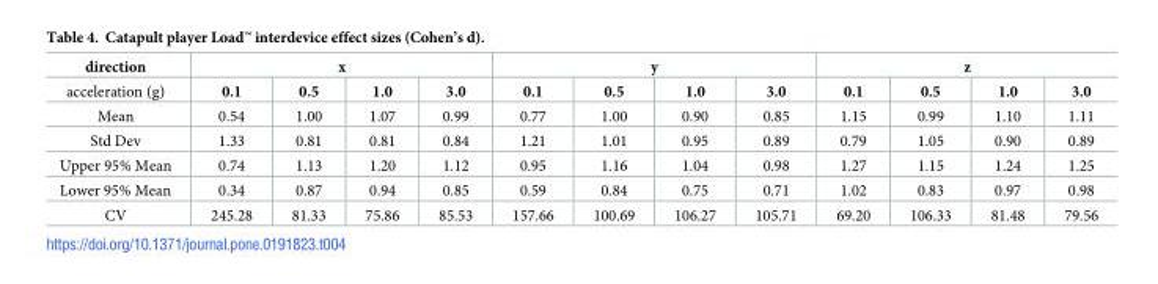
<table><thead><tr><td rowspan="2">direction acceleration (g)</td><td colspan="4">x</td><td colspan="4">y</td><td colspan="4">z</td></tr><tr><td>0.1</td><td>0.5</td><td>1.0</td><td>3.0</td><td>0.1</td><td>0.5</td><td>1.0</td><td>3.0</td><td>0.1</td><td>0.5</td><td>1.0</td><td>3.0</td></tr></thead><tbody><tr><td>Mean</td><td>0.54</td><td>1.00</td><td>1.07</td><td>0.99</td><td>0.77</td><td>1.00</td><td>0.90</td><td>0.85</td><td>1.15</td><td>0.99</td><td>1.10</td><td>1.11</td></tr><tr><td>Std Dev</td><td>1.33</td><td>0.81</td><td>0.81</td><td>0.84</td><td>1.21</td><td>1.01</td><td>0.95</td><td>0.89</td><td>0.79</td><td>1.05</td><td>0.90</td><td>0.89</td></tr><tr><td>Upper 95% Mean</td><td>0.74</td><td>1.13</td><td>1.20</td><td>1.12</td><td>0.95</td><td>1.16</td><td>1.04</td><td>0.98</td><td>1.27</td><td>1.15</td><td>1.24</td><td>1.25</td></tr><tr><td>Lower 95% Mean</td><td>0.34</td><td>0.87</td><td>0.94</td><td>0.85</td><td>0.59</td><td>0.84</td><td>0.75</td><td>0.71</td><td>1.02</td><td>0.83</td><td>0.97</td><td>0.98</td></tr><tr><td>CV</td><td>245.28</td><td>81.33</td><td>75.86</td><td>85.53</td><td>157.66</td><td>100.69</td><td>106.27</td><td>105.71</td><td>69.20</td><td>106.33</td><td>81.48</td><td>79.56</td></tr></tbody></table>